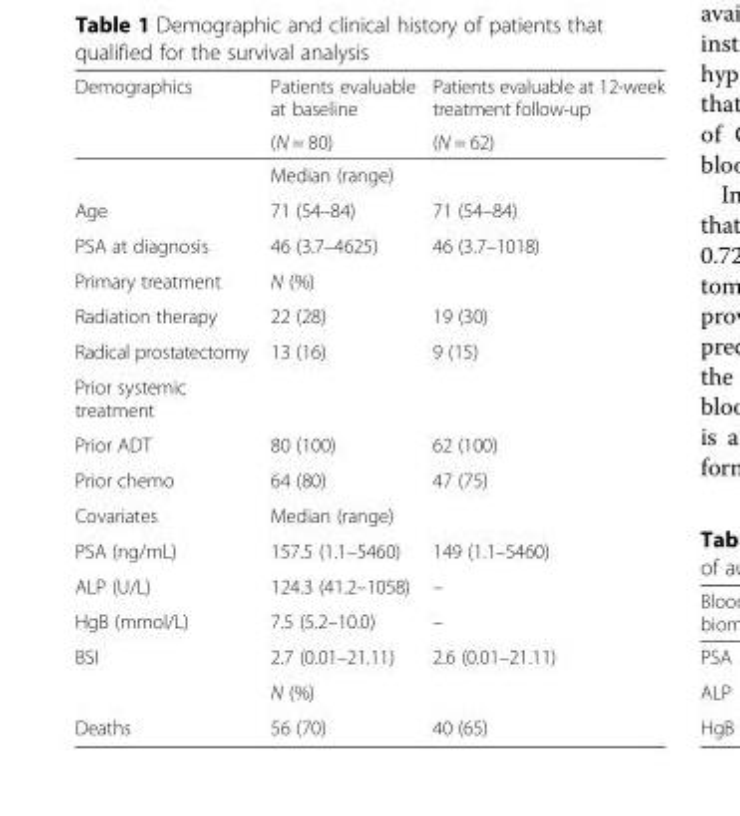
<table><thead><tr><td rowspan="2">Demographics</td><td rowspan="2">Patients evaluable at baseline (N = 80)</td><td rowspan="2">Patients evaluable at 12-week treatment follow-up (N = 62)</td></tr><tr></tr></thead><tbody><tr><td></td><td colspan="2">Median (range)</td></tr><tr><td>Age</td><td>71 (54–84)</td><td>71 (54–84)</td></tr><tr><td>PSA at diagnosis</td><td>46 (3.7–4625)</td><td>46 (3.7–1018)</td></tr><tr><td>Primary treatment</td><td colspan="2">N (%)</td></tr><tr><td>Radiation therapy</td><td>22 (28)</td><td>19 (30)</td></tr><tr><td>Radical prostatectomy</td><td>13 (16)</td><td>9 (15)</td></tr><tr><td colspan="3">Prior systemic treatment</td></tr><tr><td>Prior ADT</td><td>80 (100)</td><td>62 (100)</td></tr><tr><td>Prior chemo</td><td>64 (80)</td><td>47 (75)</td></tr><tr><td>Covariates</td><td colspan="2">Median (range)</td></tr><tr><td>PSA (ng/mL)</td><td>157.5 (1.1–5460)</td><td>149 (1.1–5460)</td></tr><tr><td>ALP (U/L)</td><td>124.3 (41.2–1058)</td><td>–</td></tr><tr><td>HgB (mmol/L)</td><td>7.5 (5.2–10.0)</td><td>–</td></tr><tr><td rowspan="2">BSI</td><td>2.7 (0.01–21.11)</td><td>2.6 (0.01–21.11)</td></tr><tr><td colspan="2">N (%)</td></tr><tr><td>Deaths</td><td>56 (70)</td><td>40 (65)</td></tr></tbody></table>